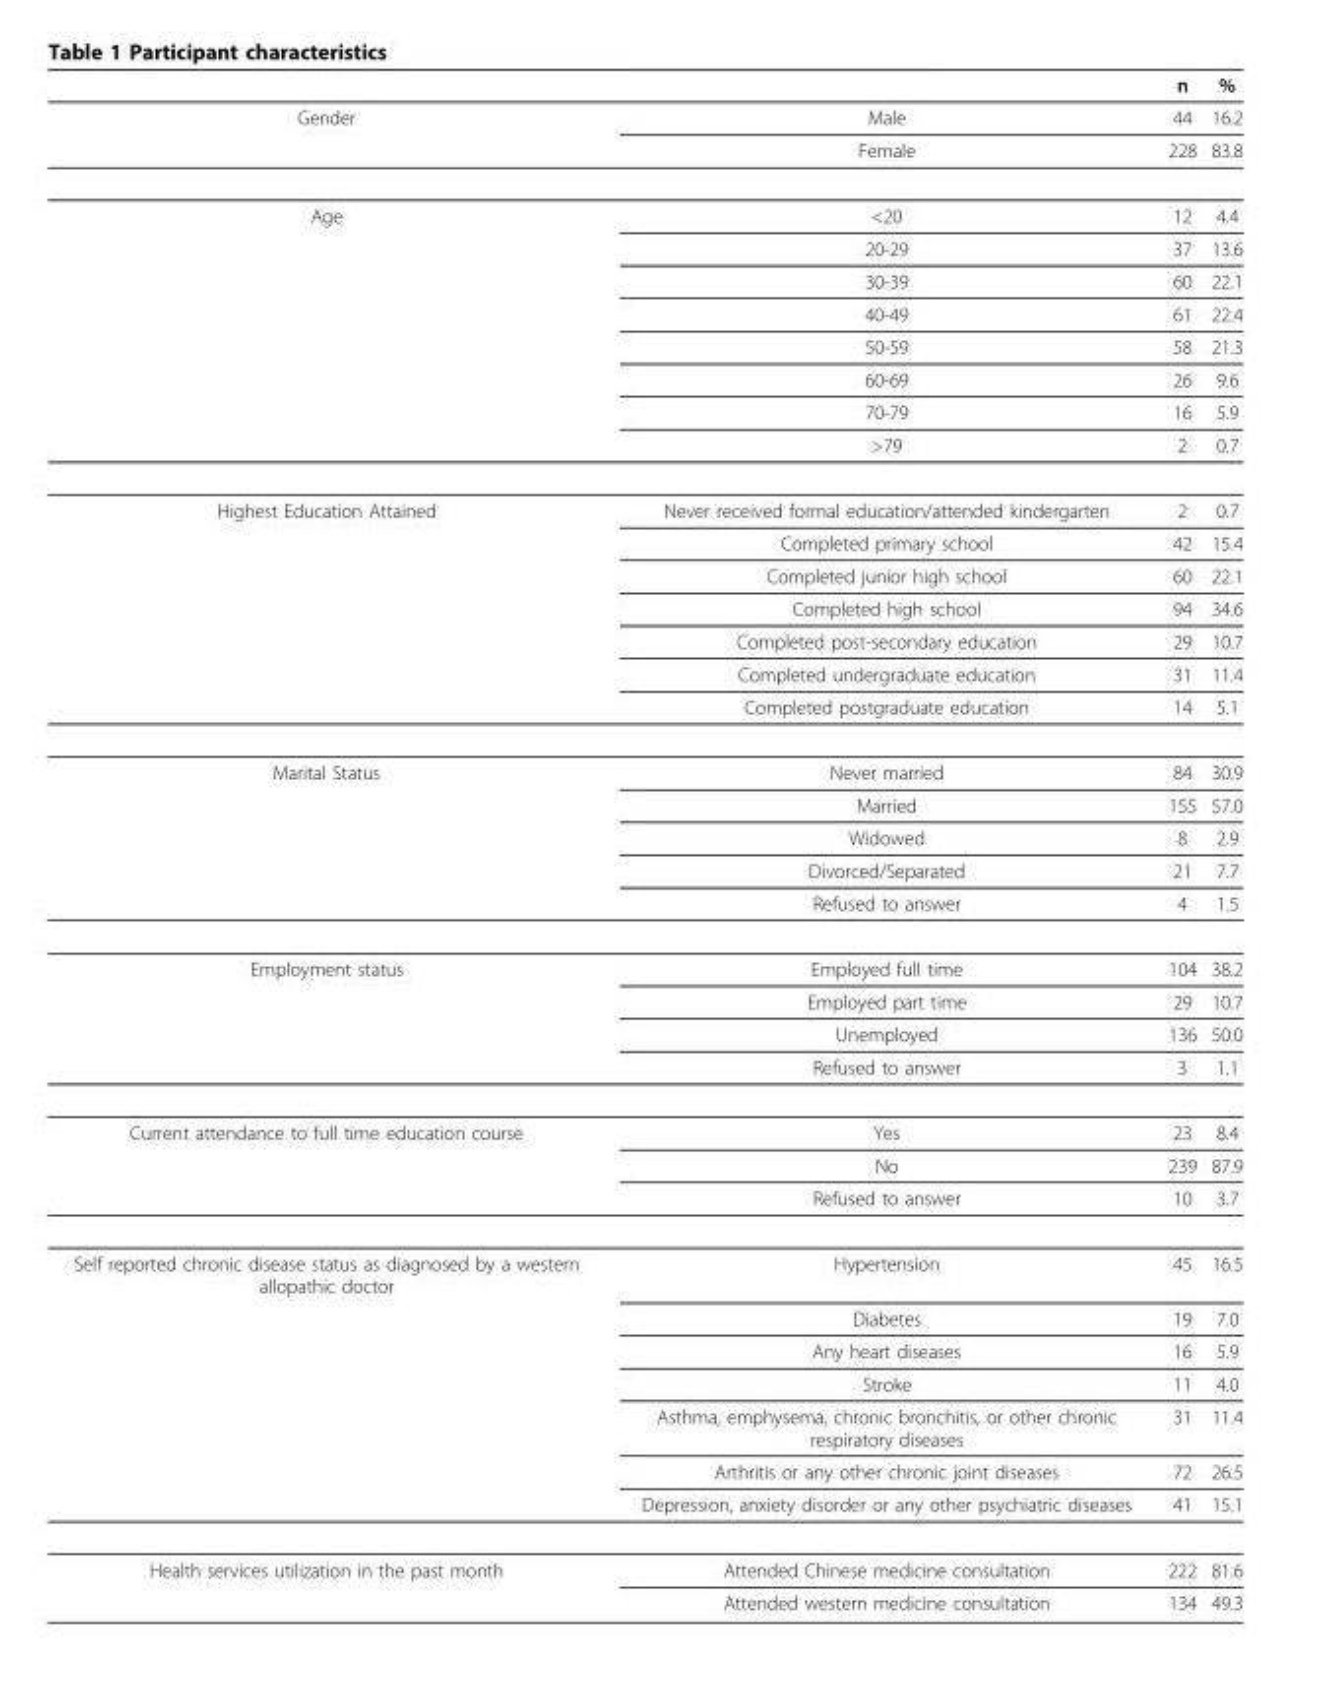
<table><thead><tr><td></td><td></td><td>n</td><td>%</td></tr></thead><tbody><tr><td rowspan="2">Gender</td><td>Male</td><td>44</td><td>16.2</td></tr><tr><td>Female</td><td>228</td><td>83.8</td></tr><tr><td rowspan="8">Age</td><td>&lt;20</td><td>12</td><td>4.4</td></tr><tr><td>20-29</td><td>37</td><td>13.6</td></tr><tr><td>30-39</td><td>60</td><td>22.1</td></tr><tr><td>40-49</td><td>61</td><td>22.4</td></tr><tr><td>50-59</td><td>58</td><td>21.3</td></tr><tr><td>60-69</td><td>26</td><td>9.6</td></tr><tr><td>70-79</td><td>16</td><td>5.9</td></tr><tr><td>&gt;79</td><td>2</td><td>0.7</td></tr><tr><td rowspan="7">Highest Education Attained</td><td>Never received formal education/attended kindergarten</td><td>2</td><td>0.7</td></tr><tr><td>Completed primary school</td><td>42</td><td>15.4</td></tr><tr><td>Completed junior high school</td><td>60</td><td>22.1</td></tr><tr><td>Completed high school</td><td>94</td><td>34.6</td></tr><tr><td>Completed post-secondary education</td><td>29</td><td>10.7</td></tr><tr><td>Completed undergraduate education</td><td>31</td><td>11.4</td></tr><tr><td>Completed postgraduate education</td><td>14</td><td>5.1</td></tr><tr><td rowspan="5">Marital Status</td><td>Never married</td><td>84</td><td>30.9</td></tr><tr><td>Married</td><td>155</td><td>57.0</td></tr><tr><td>Widowed</td><td>8</td><td>2.9</td></tr><tr><td>Divorced/Separated</td><td>21</td><td>7.7</td></tr><tr><td>Refused to answer</td><td>4</td><td>1.5</td></tr><tr><td rowspan="4">Employment status</td><td>Employed full time</td><td>104</td><td>38.2</td></tr><tr><td>Employed part time</td><td>29</td><td>10.7</td></tr><tr><td>Unemployed</td><td>136</td><td>50.0</td></tr><tr><td>Refused to answer</td><td>3</td><td>1.1</td></tr><tr><td rowspan="3">Current attendance to full time education course</td><td>Yes</td><td>23</td><td>8.4</td></tr><tr><td>No</td><td>239</td><td>87.9</td></tr><tr><td>Refused to answer</td><td>10</td><td>3.7</td></tr><tr><td rowspan="7">Self reported chronic disease status as diagnosed by a western allopathic doctor</td><td>Hypertension</td><td>45</td><td>16.5</td></tr><tr><td>Diabetes</td><td>19</td><td>7.0</td></tr><tr><td>Any heart diseases</td><td>16</td><td>5.9</td></tr><tr><td>Stroke</td><td>11</td><td>4.0</td></tr><tr><td>Asthma, emphysema, chronic bronchitis, or other chronic respiratory diseases</td><td>31</td><td>11.4</td></tr><tr><td>Arthritis or any other chronic joint diseases</td><td>72</td><td>26.5</td></tr><tr><td>Depression, anxiety disorder or any other psychiatric diseases</td><td>41</td><td>15.1</td></tr><tr><td rowspan="2">Health services utilization in the past month</td><td>Attended Chinese medicine consultation</td><td>222</td><td>81.6</td></tr><tr><td>Attended western medicine consultation</td><td>134</td><td>49.3</td></tr></tbody></table>